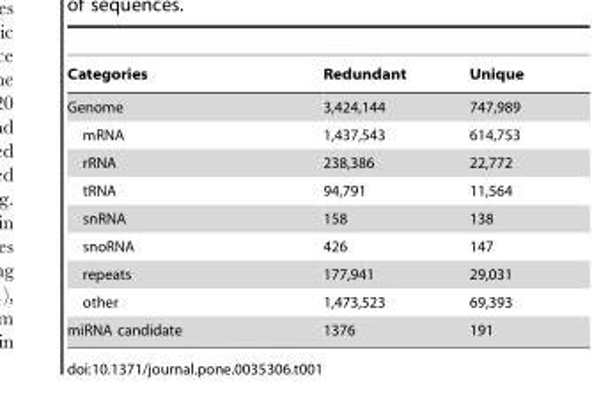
<table><thead><tr><td>Categories</td><td>Redundant</td><td>Unique</td></tr></thead><tbody><tr><td>Genome</td><td>3,424,144</td><td>747,989</td></tr><tr><td>mRNA</td><td>1,437,543</td><td>614,753</td></tr><tr><td>rRNA</td><td>238,386</td><td>22,772</td></tr><tr><td>tRNA</td><td>94,791</td><td>11,564</td></tr><tr><td>snRNA</td><td>158</td><td>138</td></tr><tr><td>snoRNA</td><td>426</td><td>147</td></tr><tr><td>repeats</td><td>177,941</td><td>29,031</td></tr><tr><td>other</td><td>1,473,523</td><td>69,393</td></tr><tr><td>miRNA candidate</td><td>1376</td><td>191</td></tr></tbody></table>